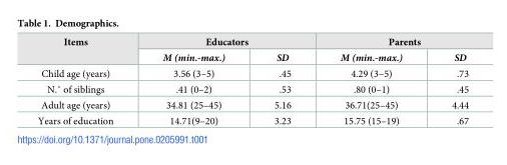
<table><thead><tr><td rowspan="2">Items</td><td colspan="2">Educators</td><td colspan="2">Parents</td></tr><tr><td>M (min.-max.)</td><td>SD</td><td>M (min.-max.)</td><td>SD</td></tr></thead><tbody><tr><td>Child age (years)</td><td>3.56 (3–5)</td><td>.45</td><td>4.29 (3–5)</td><td>.73</td></tr><tr><td>N.˚ of siblings</td><td>.41 (0–2)</td><td>.53</td><td>.80 (0–1)</td><td>.45</td></tr><tr><td>Adult age (years)</td><td>34.81 (25–45)</td><td>5.16</td><td>36.71(25–45)</td><td>4.44</td></tr><tr><td>Years of education</td><td>14.71(9–20)</td><td>3.23</td><td>15.75 (15–19)</td><td>.67</td></tr></tbody></table>